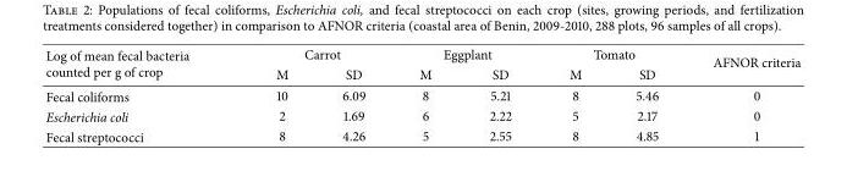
<table><thead><tr><td rowspan="2">Log of mean fecal bacteria counted per g of crop</td><td colspan="2">Carrot</td><td colspan="2">Eggplant</td><td colspan="2">Tomato</td><td rowspan="2">AFNOR criteria</td></tr><tr><td>M</td><td>SD</td><td>M</td><td>SD</td><td>M</td><td>SD</td></tr></thead><tbody><tr><td>Fecal coliforms</td><td>10</td><td>6.09</td><td>8</td><td>5.21</td><td>8</td><td>5.46</td><td>0</td></tr><tr><td>Escherichia coli</td><td>2</td><td>1.69</td><td>6</td><td>2.22</td><td>5</td><td>2.17</td><td>0</td></tr><tr><td>Fecal streptococci</td><td>8</td><td>4.26</td><td>5</td><td>2.55</td><td>8</td><td>4.85</td><td>1</td></tr></tbody></table>